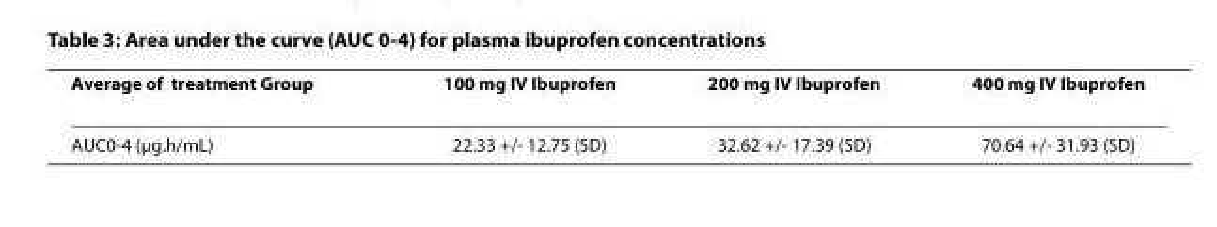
<table><thead><tr><td>Average of treatment Group</td><td>100 mg IV Ibuprofen</td><td>200 mg IV Ibuprofen</td><td>400 mg IV Ibuprofen</td></tr></thead><tbody><tr><td>AUC0-4 (μg.h/mL)</td><td>22.33 +/- 12.75 (SD)</td><td>32.62 +/- 17.39 (SD)</td><td>70.64 +/- 31.93 (SD)</td></tr></tbody></table>